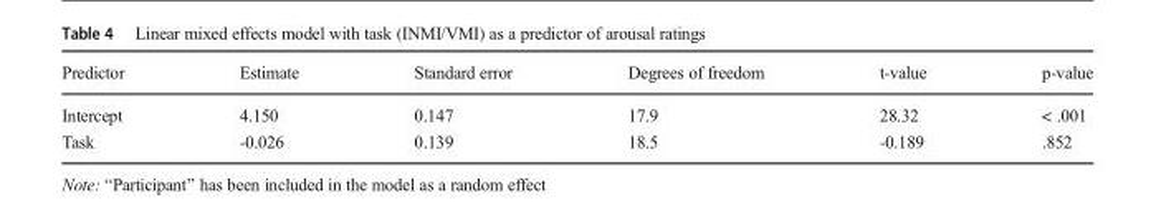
<table><thead><tr><td>Predictor</td><td>Estimate</td><td>Standard error</td><td>Degrees of freedom</td><td>t-value</td><td>p-value</td></tr></thead><tbody><tr><td>Intercept</td><td>4.150</td><td>0.147</td><td>17.9</td><td>28.32</td><td>&lt; .001</td></tr><tr><td>Task</td><td>-0.026</td><td>0.139</td><td>18.5</td><td>-0.189</td><td>.852</td></tr></tbody></table>